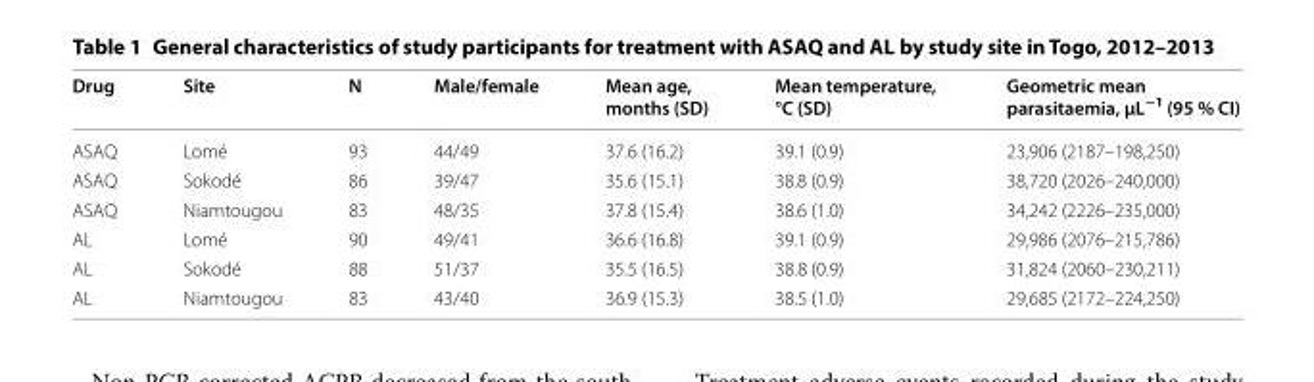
<table><thead><tr><td>Drug</td><td>Site</td><td>N</td><td>Male/female</td><td>Mean age, months (SD)</td><td>Mean temperature, °C (SD)</td><td>Geometric mean parasitaemia, µL<sup>−1</sup> (95 % CI)</td></tr></thead><tbody><tr><td>ASAQ</td><td>Lomé</td><td>93</td><td>44/49</td><td>37.6 (16.2)</td><td>39.1 (0.9)</td><td>23,906 (2187–198,250)</td></tr><tr><td>ASAQ</td><td>Sokodé</td><td>86</td><td>39/47</td><td>35.6 (15.1)</td><td>38.8 (0.9)</td><td>38,720 (2026–240,000)</td></tr><tr><td>ASAQ</td><td>Niamtougou</td><td>83</td><td>48/35</td><td>37.8 (15.4)</td><td>38.6 (1.0)</td><td>34,242 (2226–235,000)</td></tr><tr><td>AL</td><td>Lomé</td><td>90</td><td>49/41</td><td>36.6 (16.8)</td><td>39.1 (0.9)</td><td>29,986 (2076–215,786)</td></tr><tr><td>AL</td><td>Sokodé</td><td>88</td><td>51/37</td><td>35.5 (16.5)</td><td>38.8 (0.9)</td><td>31,824 (2060–230,211)</td></tr><tr><td>AL</td><td>Niamtougou</td><td>83</td><td>43/40</td><td>36.9 (15.3)</td><td>38.5 (1.0)</td><td>29,685 (2172–224,250)</td></tr></tbody></table>